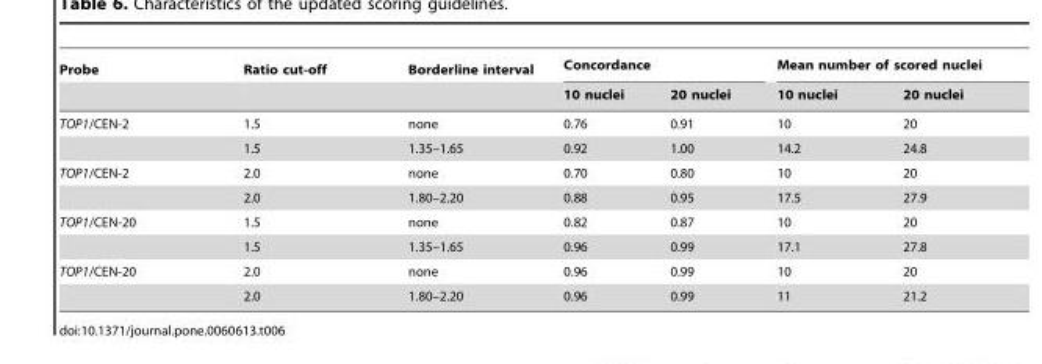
<table><thead><tr><td rowspan="2">Probe</td><td rowspan="2">Ratio cut-off</td><td rowspan="2">Borderline interval</td><td colspan="2">Concordance</td><td colspan="2">Mean number of scored nuclei</td></tr><tr><td>10 nuclei</td><td>20 nuclei</td><td>10 nuclei</td><td>20 nuclei</td></tr></thead><tbody><tr><td rowspan="2">TOP1/CEN-2</td><td>1.5</td><td>none</td><td>0.76</td><td>0.91</td><td>10</td><td>20</td></tr><tr><td>1.5</td><td>1.35–1.65</td><td>0.92</td><td>1.00</td><td>14.2</td><td>24.8</td></tr><tr><td rowspan="2">TOP1/CEN-2</td><td>2.0</td><td>none</td><td>0.70</td><td>0.80</td><td>10</td><td>20</td></tr><tr><td>2.0</td><td>1.80–2.20</td><td>0.88</td><td>0.95</td><td>17.5</td><td>27.9</td></tr><tr><td rowspan="2">TOP1/CEN-20</td><td>1.5</td><td>none</td><td>0.82</td><td>0.87</td><td>10</td><td>20</td></tr><tr><td>1.5</td><td>1.35–1.65</td><td>0.96</td><td>0.99</td><td>17.1</td><td>27.8</td></tr><tr><td rowspan="2">TOP1/CEN-20</td><td>2.0</td><td>none</td><td>0.96</td><td>0.99</td><td>10</td><td>20</td></tr><tr><td>2.0</td><td>1.80–2.20</td><td>0.96</td><td>0.99</td><td>11</td><td>21.2</td></tr></tbody></table>